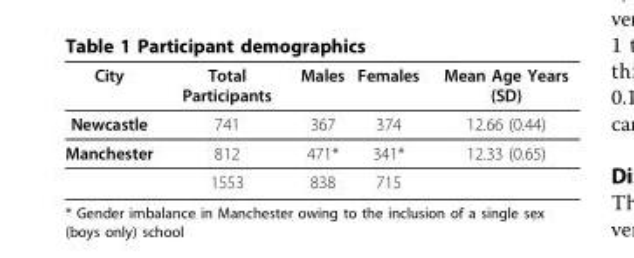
<table><thead><tr><td>City</td><td>Total Participants</td><td>Males</td><td>Females</td><td>Mean Age Years (SD)</td></tr></thead><tbody><tr><td>Newcastle</td><td>741</td><td>367</td><td>374</td><td>12.66 (0.44)</td></tr><tr><td rowspan="2">Manchester</td><td>812</td><td>471*</td><td>341*</td><td>12.33 (0.65)</td></tr><tr><td>1553</td><td>838</td><td>715</td><td></td></tr></tbody></table>